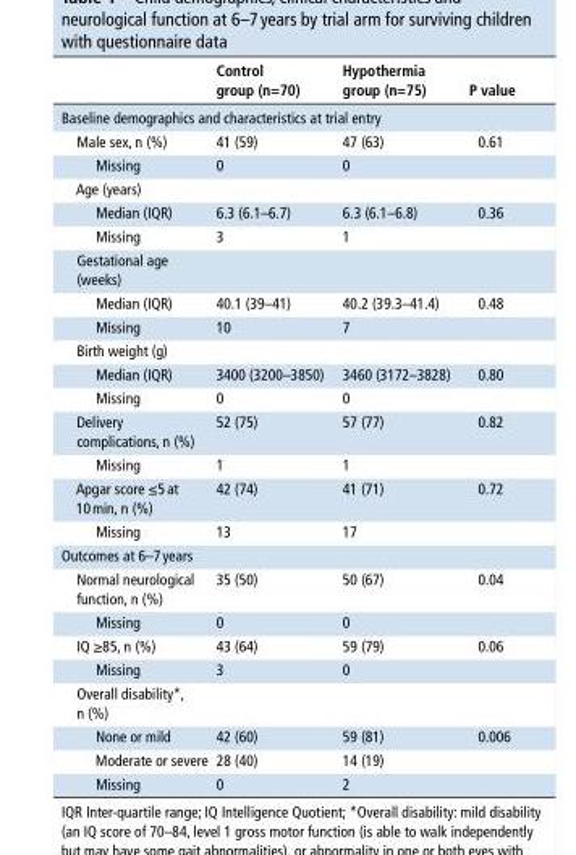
<table><thead><tr><td></td><td>Control group (n=70)</td><td>hypothermia group (n=75)</td><td>P value</td></tr></thead><tbody><tr><td colspan="4">Baseline demographics and characteristics at trial entry</td></tr><tr><td>Male sex, n (%)</td><td>41 (59)</td><td>47 (63)</td><td>0.61</td></tr><tr><td>Missing</td><td>0</td><td>0</td><td></td></tr><tr><td colspan="4">Age (years)</td></tr><tr><td>Median (IQR)</td><td>6.3 (6.1–6.7)</td><td>6.3 (6.1–6.8)</td><td>0.36</td></tr><tr><td>Missing</td><td>3</td><td>1</td><td></td></tr><tr><td colspan="4">Gestational age (weeks)</td></tr><tr><td>Median (IQR)</td><td>40.1 (39–41)</td><td>40.2 (39.3–41.4)</td><td>0.48</td></tr><tr><td>Missing</td><td>10</td><td>7</td><td></td></tr><tr><td colspan="4">Birth weight (g)</td></tr><tr><td>Median (IQR)</td><td>3400 (3200–3850)</td><td>3460 (3172–3828)</td><td>0.80</td></tr><tr><td>Missing</td><td>0</td><td>0</td><td></td></tr><tr><td>Delivery complications, n (%)</td><td>52 (75)</td><td>57 (77)</td><td>0.82</td></tr><tr><td>Missing</td><td>1</td><td>1</td><td></td></tr><tr><td>Apgar score ≤5 at 10 min, n (%)</td><td>42 (74)</td><td>41 (71)</td><td>0.72</td></tr><tr><td>Missing</td><td>13</td><td>17</td><td></td></tr><tr><td colspan="4">Outcomes at 6–7 years</td></tr><tr><td>Normal neurological function, n (%)</td><td>35 (50)</td><td>50 (67)</td><td>0.04</td></tr><tr><td>Missing</td><td>0</td><td>0</td><td></td></tr><tr><td>IQ ≥85, n (%)</td><td>43 (64)</td><td>59 (79)</td><td>0.06</td></tr><tr><td>Missing</td><td>3</td><td>0</td><td></td></tr><tr><td colspan="4">Overall disability*, n (%)</td></tr><tr><td>None or mild</td><td>42 (60)</td><td>59 (81)</td><td>0.006</td></tr><tr><td>Moderate or severe</td><td>28 (40)</td><td>14 (19)</td><td></td></tr><tr><td>Missing</td><td>0</td><td>2</td><td></td></tr></tbody></table>